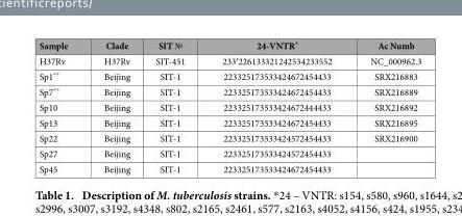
<table><thead><tr><td>Sample</td><td>Сlade</td><td>SIT №</td><td>24-VNTR*</td><td>Ac Numb</td></tr></thead><tbody><tr><td>H37Rv</td><td>H37Rv</td><td>SIT-451</td><td>233′226133321242534233552</td><td>NC_000962.3</td></tr><tr><td>Sp1**</td><td>Beijing</td><td>SIT-1</td><td>223325173533424672454433</td><td>SRX216883</td></tr><tr><td>Sp7**</td><td>Beijing</td><td>SIT-1</td><td>223325173533424672454433</td><td>SRX216889</td></tr><tr><td>Sp10</td><td>Beijing</td><td>SIT-1</td><td>223325173533424672444433</td><td>SRX216892</td></tr><tr><td>Sp13</td><td>Beijing</td><td>SIT-1</td><td>223325173533424672454433</td><td>SRX216895</td></tr><tr><td>Sp22</td><td>Beijing</td><td>SIT-1</td><td>223325173533424572454433</td><td>SRX216900</td></tr><tr><td>Sp27</td><td>Beijing</td><td>SIT-1</td><td>223325173533424572454433</td><td></td></tr><tr><td>Sp45</td><td>Beijing</td><td>SIT-1</td><td>223325173533424672454433</td><td></td></tr></tbody></table>